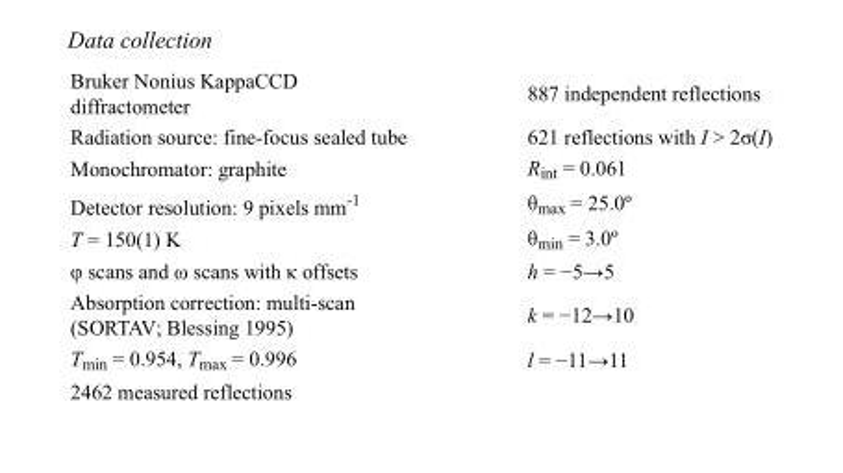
<table><tbody><tr><td>Bruker Nonius KappaCCD diffractometer</td><td>887 independent reflections</td></tr><tr><td>Radiation source: fine-focus sealed tube</td><td>621 reflections with I &gt; 2σ(I)</td></tr><tr><td>Monochromator: graphite</td><td>R<sub>int</sub> = 0.061</td></tr><tr><td>Detector resolution: 9 pixels mm<sup>-1</sup></td><td>θ<sub>max</sub> = 25.0º</td></tr><tr><td>T = 150(1) K</td><td>θ<sub>min</sub> = 3.0º</td></tr><tr><td>φ scans and ω scans with κ offsets</td><td>h = −5→5</td></tr><tr><td>Absorption correction: multi-scan (SORTAV; Blessing 1995)</td><td>k = −12→10</td></tr><tr><td>T<sub>min</sub> = 0.954, T<sub>max</sub> = 0.996</td><td>l = −11→11</td></tr><tr><td>2462 measured reflections</td><td></td></tr></tbody></table>